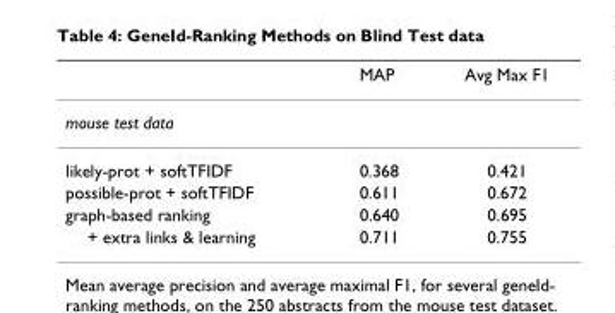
<table><thead><tr><td></td><td>MAP</td><td>Avg Max F1</td></tr></thead><tbody><tr><td colspan="3">mouse test data</td></tr><tr><td>likely-prot + softTFIDF</td><td>0.368</td><td>0.421</td></tr><tr><td>possible-prot + softTFIDF</td><td>0.611</td><td>0.672</td></tr><tr><td>graph-based ranking</td><td>0.640</td><td>0.695</td></tr><tr><td>+ extra links &amp; learning</td><td>0.711</td><td>0.755</td></tr></tbody></table>